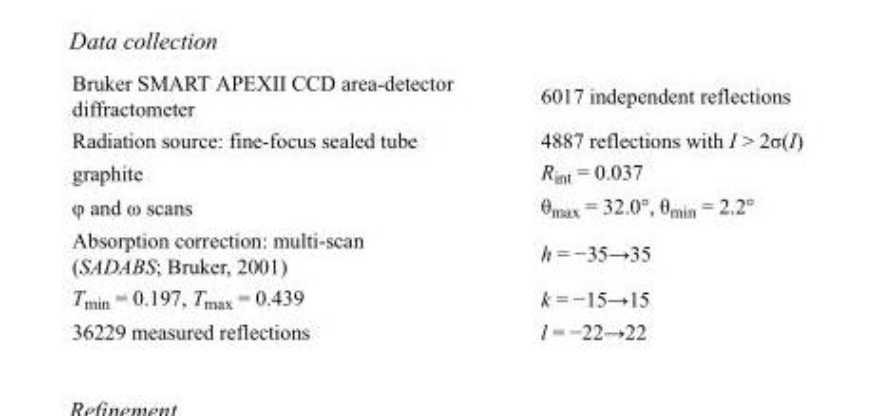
<table><tbody><tr><td>Bruker SMART APEXII CCD area-detector diffractometer</td><td>6017 independent reflections</td></tr><tr><td>Radiation source: fine-focus sealed tube</td><td>4887 reflections with I &gt; 2σ(I)</td></tr><tr><td>graphite</td><td>R<sub>int</sub> = 0.037</td></tr><tr><td>φ and ω scans</td><td>θ<sub>max</sub> = 32.0°, θ<sub>min</sub> = 2.2°</td></tr><tr><td>Absorption correction: multi-scan (SADABS; Bruker, 2001)</td><td>h = −35→35</td></tr><tr><td>T<sub>min</sub> = 0.197, T<sub>max</sub> = 0.439</td><td>k = −15→15</td></tr><tr><td>36229 measured reflections</td><td>l = −22→22</td></tr></tbody></table>